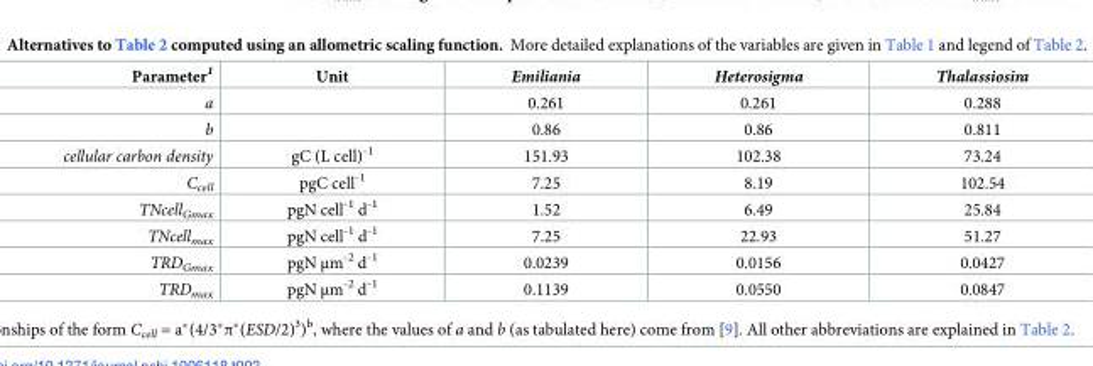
<table><thead><tr><td>Parameter<sup>1</sup></td><td>Unit</td><td>Emiliania</td><td>Heterosigma</td><td>Thalassiosira</td></tr></thead><tbody><tr><td>a</td><td></td><td>0.261</td><td>0.261</td><td>0.288</td></tr><tr><td>b</td><td></td><td>0.86</td><td>0.86</td><td>0.811</td></tr><tr><td>cellular carbon density</td><td>gC (L cell)<sup>-1</sup></td><td>151.93</td><td>102.38</td><td>73.24</td></tr><tr><td>C<sub>cell</sub></td><td>pgC cell<sup>-1</sup></td><td>7.25</td><td>8.19</td><td>102.54</td></tr><tr><td>TNcell<sub>Gmax</sub></td><td>pgN cell<sup>-1</sup> d<sup>-1</sup></td><td>1.52</td><td>6.49</td><td>25.84</td></tr><tr><td>TNcell<sub>max</sub></td><td>pgN cell<sup>-1</sup> d<sup>-1</sup></td><td>7.25</td><td>22.93</td><td>51.27</td></tr><tr><td>TRD<sub>Gmax</sub></td><td>pgN μm<sup>-2</sup> d<sup>-1</sup></td><td>0.0239</td><td>0.0156</td><td>0.0427</td></tr><tr><td>TRD<sub>max</sub></td><td>pgN μm<sup>-2</sup> d<sup>-1</sup></td><td>0.1139</td><td>0.0550</td><td>0.0847</td></tr></tbody></table>